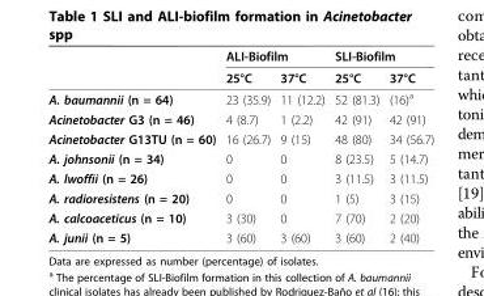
<table><thead><tr><td rowspan="2"></td><td colspan="2">ALI-Biofilm</td><td colspan="2">SLI-Biofilm</td></tr><tr><td>25°C</td><td>37°C</td><td>25°C</td><td>37°C</td></tr></thead><tbody><tr><td>A. baumannii (n = 64)</td><td>23 (35.9)</td><td>11 (12.2)</td><td>52 (81.3)</td><td>(16)<sup>a</sup></td></tr><tr><td>Acinetobacter G3 (n = 46)</td><td>4 (8.7)</td><td>1 (2.2)</td><td>42 (91)</td><td>42 (91)</td></tr><tr><td>Acinetobacter G13TU (n = 60)</td><td>16 (26.7)</td><td>9 (15)</td><td>48 (80)</td><td>34 (56.7)</td></tr><tr><td>A. johnsonii (n = 34)</td><td>0</td><td>0</td><td>8 (23.5)</td><td>5 (14.7)</td></tr><tr><td>A. lwoffii (n = 26)</td><td>0</td><td>0</td><td>3 (11.5)</td><td>3 (11.5)</td></tr><tr><td>A. radioresistens (n = 20)</td><td>0</td><td>0</td><td>1 (5)</td><td>3 (15)</td></tr><tr><td>A. calcoaceticus (n = 10)</td><td>3 (30)</td><td>0</td><td>7 (70)</td><td>2 (20)</td></tr><tr><td>A. junii (n = 5)</td><td>3 (60)</td><td>3 (60)</td><td>3 (60)</td><td>2 (40)</td></tr></tbody></table>